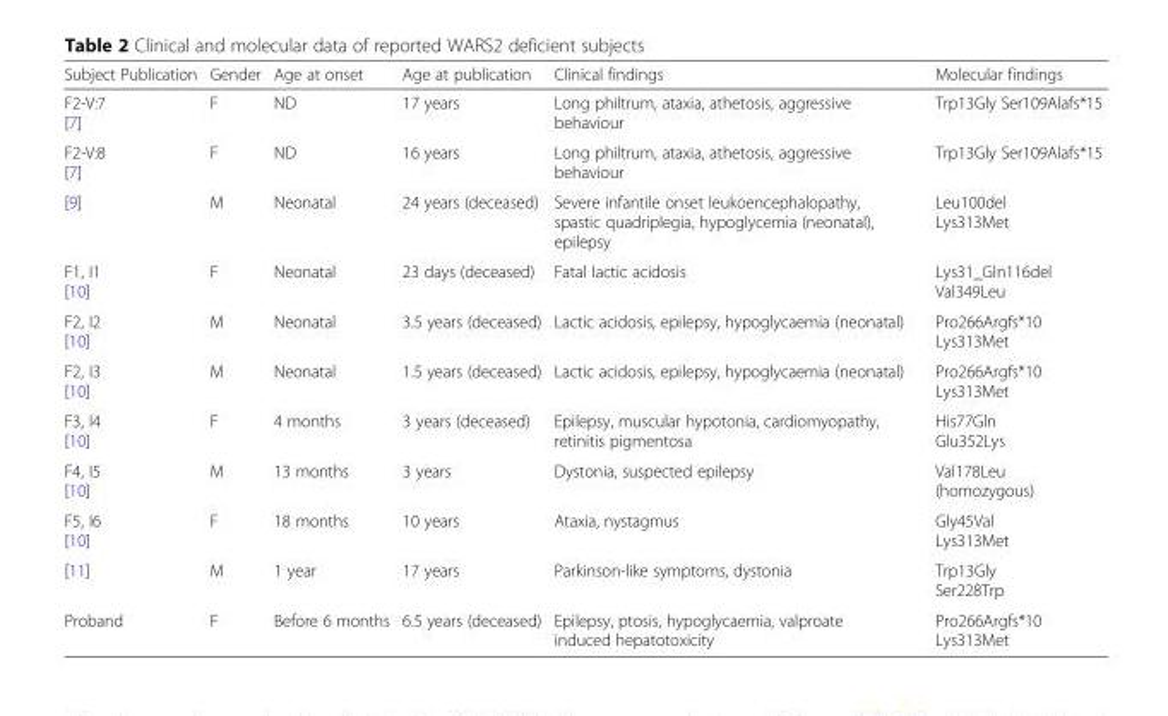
<table><thead><tr><td>Subject Publication</td><td>Gender</td><td>Age at onset</td><td>Age at publication</td><td>Clinical findings</td><td>Molecular findings</td></tr></thead><tbody><tr><td>F2-V:7 [7]</td><td>F</td><td>ND</td><td>17 years</td><td>Long philtrum, ataxia, athetosis, aggressive behaviour</td><td>Trp13Gly Ser109Alafs*15</td></tr><tr><td>F2-V:8 [7]</td><td>F</td><td>ND</td><td>16 years</td><td>Long philtrum, ataxia, athetosis, aggressive behaviour</td><td>Trp13Gly Ser109Alafs*15</td></tr><tr><td>[9]</td><td>M</td><td>Neonatal</td><td>24 years (deceased)</td><td>Severe infantile onset leukoencephalopathy, spastic quadriplegia, hypoglycemia (neonatal), epilepsy</td><td>Leu100del Lys313Met</td></tr><tr><td>F1, I1 [10]</td><td>F</td><td>Neonatal</td><td>23 days (deceased)</td><td>Fatal lactic acidosis</td><td>Lys31_Gln116del Val349Leu</td></tr><tr><td>F2, I2 [10]</td><td>M</td><td>Neonatal</td><td>3.5 years (deceased)</td><td>Lactic acidosis, epilepsy, hypoglycaemia (neonatal)</td><td>Pro266Argfs*10 Lys313Met</td></tr><tr><td>F2, I3 [10]</td><td>M</td><td>Neonatal</td><td>1.5 years (deceased)</td><td>Lactic acidosis, epilepsy, hypoglycaemia (neonatal)</td><td>Pro266Argfs*10 Lys313Met</td></tr><tr><td>F3, I4 [10]</td><td>F</td><td>4 months</td><td>3 years (deceased)</td><td>Epilepsy, muscular hypotonia, cardiomyopathy, retinitis pigmentosa</td><td>His77Gln Glu352Lys</td></tr><tr><td>F4, I5 [10]</td><td>M</td><td>13 months</td><td>3 years</td><td>Dystonia, suspected epilepsy</td><td>Val178Leu (homozygous)</td></tr><tr><td>F5, I6 [10]</td><td>F</td><td>18 months</td><td>10 years</td><td>Ataxia, nystagmus</td><td>Gly45Val Lys313Met</td></tr><tr><td>[11]</td><td>M</td><td>1 year</td><td>17 years</td><td>Parkinson-like symptoms, dystonia</td><td>Trp13Gly Ser228Trp</td></tr><tr><td>Proband</td><td>F</td><td>Before 6 months</td><td>6.5 years (deceased)</td><td>Epilepsy, ptosis, hypoglycaemia, valproate induced hepatotoxicity</td><td>Pro266Argfs*10 Lys313Met</td></tr></tbody></table>